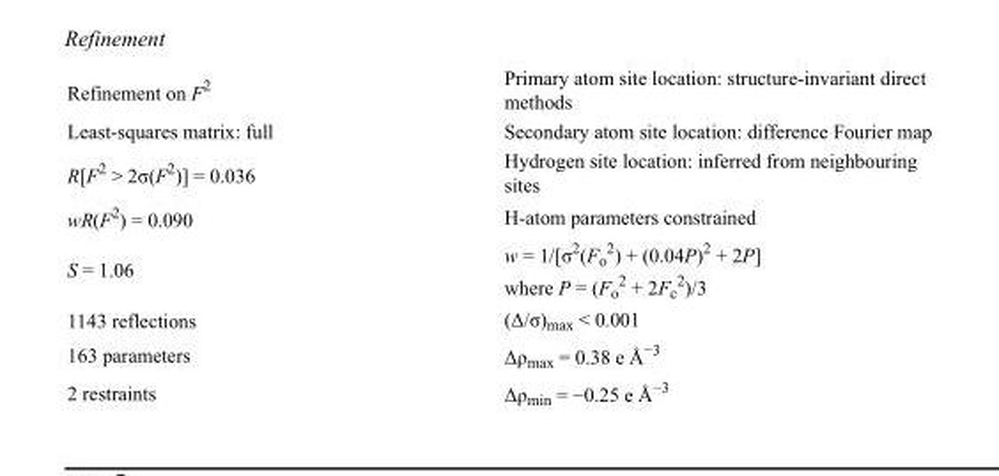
<table><tbody><tr><td>Refinement on F<sup>2</sup></td><td>Primary atom site location: structure-invariant direct methods</td></tr><tr><td>Least-squares matrix: full</td><td>Secondary atom site location: difference Fourier map</td></tr><tr><td>R[F<sup>2</sup> &gt; 2σ(F<sup>2</sup>)] = 0.036</td><td>Hydrogen site location: inferred from neighbouring sites</td></tr><tr><td>wR(F<sup>2</sup>) = 0.090</td><td>H-atom parameters constrained</td></tr><tr><td>S = 1.06</td><td>w = 1/[σ<sup>2</sup>(F<sub>o</sub> <sup>2</sup>) + (0.04P)<sup>2</sup> + 2P] where P = (F<sub>o</sub> <sup>2</sup> + 2F<sub>c</sub> <sup>2</sup>)/3</td></tr><tr><td>1143 reflections</td><td>(Δ/σ)<sub>max</sub> &lt; 0.001</td></tr><tr><td>163 parameters</td><td>Δρ<sub>max</sub> = 0.38 e Å<sup>−3</sup></td></tr><tr><td>2 restraints</td><td>Δρ<sub>min</sub> = −0.25 e Å<sup>−3</sup></td></tr></tbody></table>